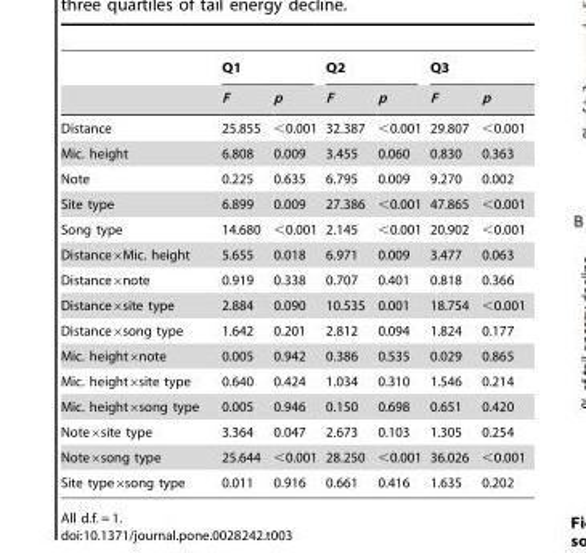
<table><thead><tr><td rowspan="2"></td><td colspan="2">Q1</td><td colspan="2">Q2</td><td colspan="2">Q3</td></tr><tr><td>F</td><td>p</td><td>F</td><td>p</td><td>F</td><td>p</td></tr></thead><tbody><tr><td>Distance</td><td>25.855</td><td>&lt;0.001</td><td>32.387</td><td>&lt;0.001</td><td>29.807</td><td>&lt;0.001</td></tr><tr><td>Mic. height</td><td>6.808</td><td>0.009</td><td>3.455</td><td>0.060</td><td>0.830</td><td>0.363</td></tr><tr><td>Note</td><td>0.225</td><td>0.635</td><td>6.795</td><td>0.009</td><td>9.270</td><td>0.002</td></tr><tr><td>Site type</td><td>6.899</td><td>0.009</td><td>27.386</td><td>&lt;0.001</td><td>47.865</td><td>&lt;0.001</td></tr><tr><td>Song type</td><td>14.680</td><td>&lt;0.001</td><td>2.145</td><td>&lt;0.001</td><td>20.902</td><td>&lt;0.001</td></tr><tr><td>Distance×Mic. height</td><td>5.655</td><td>0.018</td><td>6.971</td><td>0.009</td><td>3.477</td><td>0.063</td></tr><tr><td>Distance×note</td><td>0.919</td><td>0.338</td><td>0.707</td><td>0.401</td><td>0.818</td><td>0.366</td></tr><tr><td>Distance×site type</td><td>2.884</td><td>0.090</td><td>10.535</td><td>0.001</td><td>18.754</td><td>&lt;0.001</td></tr><tr><td>Distance×song type</td><td>1.642</td><td>0.201</td><td>2.812</td><td>0.094</td><td>1.824</td><td>0.177</td></tr><tr><td>Mic. height×note</td><td>0.005</td><td>0.942</td><td>0.386</td><td>0.535</td><td>0.029</td><td>0.865</td></tr><tr><td>Mic. height×site type</td><td>0.640</td><td>0.424</td><td>1.034</td><td>0.310</td><td>1.546</td><td>0.214</td></tr><tr><td>Mic. height×song type</td><td>0.005</td><td>0.946</td><td>0.150</td><td>0.698</td><td>0.651</td><td>0.420</td></tr><tr><td>Note×site type</td><td>3.364</td><td>0.047</td><td>2.673</td><td>0.103</td><td>1.305</td><td>0.254</td></tr><tr><td>Note×song type</td><td>25.644</td><td>&lt;0.001</td><td>28.250</td><td>&lt;0.001</td><td>36.026</td><td>&lt;0.001</td></tr><tr><td>Site type×song type</td><td>0.011</td><td>0.916</td><td>0.661</td><td>0.416</td><td>1.635</td><td>0.202</td></tr></tbody></table>